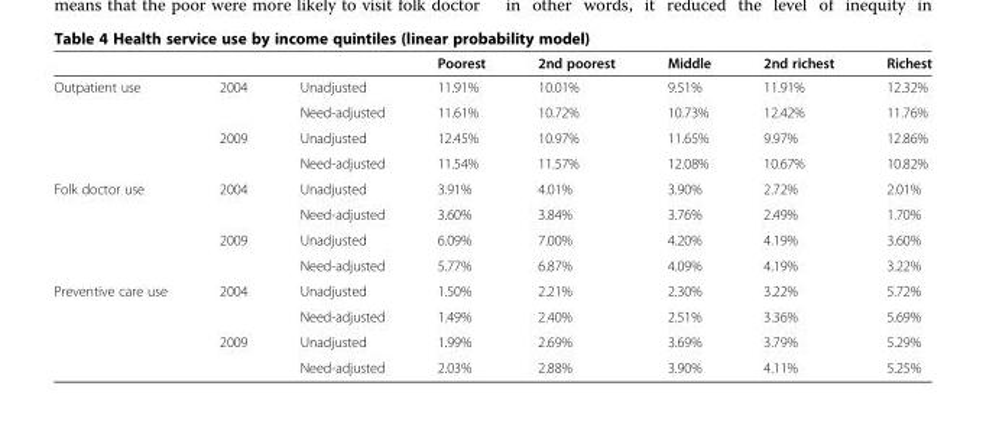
<table><thead><tr><td></td><td></td><td></td><td>Poorest</td><td>2nd poorest</td><td>Middle</td><td>2nd richest</td><td>Richest</td></tr></thead><tbody><tr><td rowspan="4">Outpatient use</td><td>2004</td><td>Unadjusted</td><td>11.91%</td><td>10.01%</td><td>9.51%</td><td>11.91%</td><td>12.32%</td></tr><tr><td></td><td>Need-adjusted</td><td>11.61%</td><td>10.72%</td><td>10.73%</td><td>12.42%</td><td>11.76%</td></tr><tr><td>2009</td><td>Unadjusted</td><td>12.45%</td><td>10.97%</td><td>11.65%</td><td>9.97%</td><td>12.86%</td></tr><tr><td></td><td>Need-adjusted</td><td>11.54%</td><td>11.57%</td><td>12.08%</td><td>10.67%</td><td>10.82%</td></tr><tr><td rowspan="4">Folk doctor use</td><td>2004</td><td>Unadjusted</td><td>3.91%</td><td>4.01%</td><td>3.90%</td><td>2.72%</td><td>2.01%</td></tr><tr><td></td><td>Need-adjusted</td><td>3.60%</td><td>3.84%</td><td>3.76%</td><td>2.49%</td><td>1.70%</td></tr><tr><td>2009</td><td>Unadjusted</td><td>6.09%</td><td>7.00%</td><td>4.20%</td><td>4.19%</td><td>3.60%</td></tr><tr><td></td><td>Need-adjusted</td><td>5.77%</td><td>6.87%</td><td>4.09%</td><td>4.19%</td><td>3.22%</td></tr><tr><td rowspan="4">Preventive care use</td><td>2004</td><td>Unadjusted</td><td>1.50%</td><td>2.21%</td><td>2.30%</td><td>3.22%</td><td>5.72%</td></tr><tr><td></td><td>Need-adjusted</td><td>1.49%</td><td>2.40%</td><td>2.51%</td><td>3.36%</td><td>5.69%</td></tr><tr><td>2009</td><td>Unadjusted</td><td>1.99%</td><td>2.69%</td><td>3.69%</td><td>3.79%</td><td>5.29%</td></tr><tr><td></td><td>Need-adjusted</td><td>2.03%</td><td>2.88%</td><td>3.90%</td><td>4.11%</td><td>5.25%</td></tr></tbody></table>